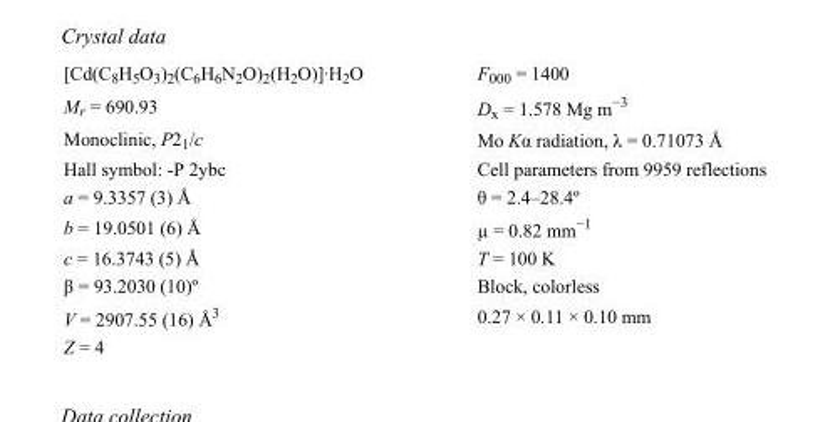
<table><tbody><tr><td>[Cd(C<sub>8</sub>H<sub>5</sub>O<sub>3</sub>)<sub>2</sub>(C<sub>6</sub>H<sub>6</sub>N<sub>2</sub>O)<sub>2</sub>(H<sub>2</sub>O)]·H<sub>2</sub>O</td><td>F000 = 1400</td></tr><tr><td>M<sub>r</sub> = 690.93</td><td>D<sub>x</sub> = 1.578 Mg m<sup>−3</sup></td></tr><tr><td>Monoclinic, P2<sub>1</sub>/c</td><td>Mo Kα radiation, λ = 0.71073 Å</td></tr><tr><td>Hall symbol: -P 2ybc</td><td>Cell parameters from 9959 reflections</td></tr><tr><td>a = 9.3357 (3) Å</td><td>θ = 2.4–28.4º</td></tr><tr><td>b = 19.0501 (6) Å</td><td>µ = 0.82 mm<sup>−1</sup></td></tr><tr><td>c = 16.3743 (5) Å</td><td>T = 100 K</td></tr><tr><td>β = 93.2030 (10)º</td><td>Block, colorless</td></tr><tr><td>V = 2907.55 (16) Å<sup>3</sup></td><td>0.27 × 0.11 × 0.10 mm</td></tr><tr><td>Z = 4</td><td></td></tr></tbody></table>